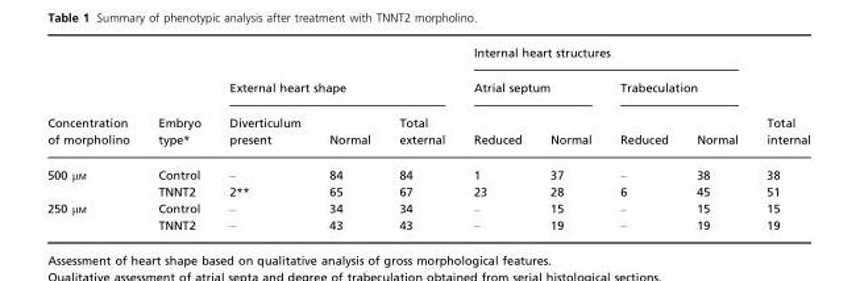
<table><thead><tr><td rowspan="3">Concentration of morpholino</td><td rowspan="3">Embryo type*</td><td rowspan="2" colspan="3">External heart shape</td><td colspan="4">Internal heart structures</td><td rowspan="3">Total internal</td></tr><tr><td colspan="2">Atrial septum</td><td colspan="2">Trabeculation</td></tr><tr><td>Diverticulum present</td><td>Normal</td><td>Total external</td><td>Reduced</td><td>Normal</td><td>Reduced</td><td>Normal</td></tr></thead><tbody><tr><td rowspan="2">500 μM</td><td>Control</td><td>–</td><td>84</td><td>84</td><td>1</td><td>37</td><td>–</td><td>38</td><td>38</td></tr><tr><td>TNNT2</td><td>2**</td><td>65</td><td>67</td><td>23</td><td>28</td><td>6</td><td>45</td><td>51</td></tr><tr><td rowspan="2">250 μM</td><td>Control</td><td>–</td><td>34</td><td>34</td><td>–</td><td>15</td><td>–</td><td>15</td><td>15</td></tr><tr><td>TNNT2</td><td>–</td><td>43</td><td>43</td><td>–</td><td>19</td><td>–</td><td>19</td><td>19</td></tr></tbody></table>